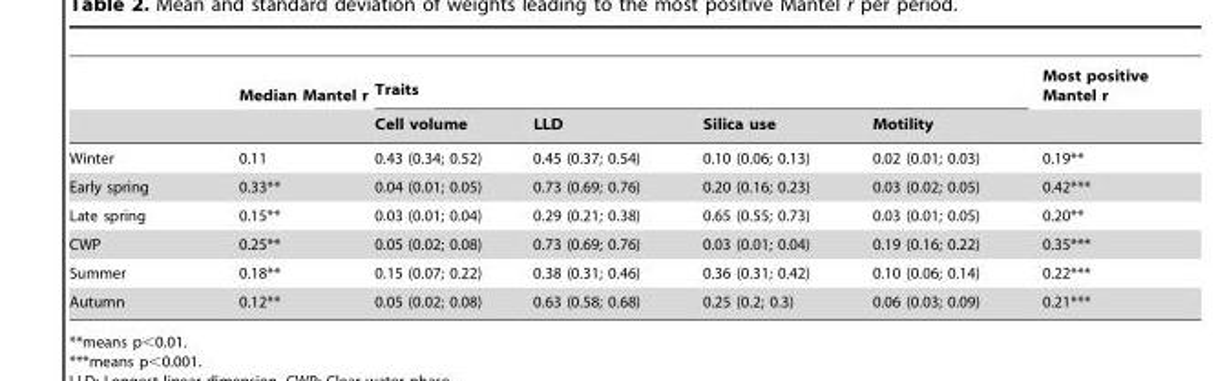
<table><thead><tr><td rowspan="2"></td><td rowspan="2">Median Mantel r</td><td colspan="4">Traits</td><td rowspan="2">Most positive Mantel r</td></tr><tr><td>Cell volume</td><td>LLD</td><td>Silica use</td><td>Motility</td></tr></thead><tbody><tr><td>Winter</td><td>0.11</td><td>0.43 (0.34; 0.52)</td><td>0.45 (0.37; 0.54)</td><td>0.10 (0.06; 0.13)</td><td>0.02 (0.01; 0.03)</td><td>0.19**</td></tr><tr><td>Early spring</td><td>0.33**</td><td>0.04 (0.01; 0.05)</td><td>0.73 (0.69; 0.76)</td><td>0.20 (0.16; 0.23)</td><td>0.03 (0.02; 0.05)</td><td>0.42***</td></tr><tr><td>Late spring</td><td>0.15**</td><td>0.03 (0.01; 0.04)</td><td>0.29 (0.21; 0.38)</td><td>0.65 (0.55; 0.73)</td><td>0.03 (0.01; 0.05)</td><td>0.20**</td></tr><tr><td>CWP</td><td>0.25**</td><td>0.05 (0.02; 0.08)</td><td>0.73 (0.69; 0.76)</td><td>0.03 (0.01; 0.04)</td><td>0.19 (0.16; 0.22)</td><td>0.35***</td></tr><tr><td>Summer</td><td>0.18**</td><td>0.15 (0.07; 0.22)</td><td>0.38 (0.31; 0.46)</td><td>0.36 (0.31; 0.42)</td><td>0.10 (0.06; 0.14)</td><td>0.22***</td></tr><tr><td>Autumn</td><td>0.12**</td><td>0.05 (0.02; 0.08)</td><td>0.63 (0.58; 0.68)</td><td>0.25 (0.2; 0.3)</td><td>0.06 (0.03; 0.09)</td><td>0.21***</td></tr></tbody></table>